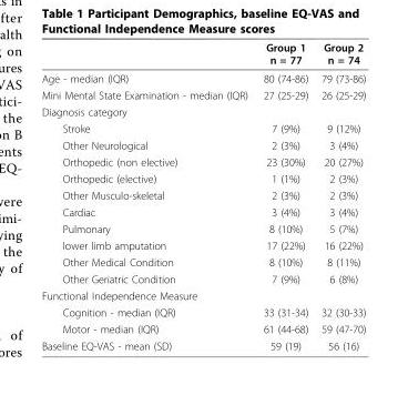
<table><thead><tr><td></td><td>Group 1 n = 77</td><td>Group 2 n = 74</td></tr></thead><tbody><tr><td>Age - median (IQR)</td><td>80 (74-86)</td><td>79 (73-86)</td></tr><tr><td>Mini Mental State Examination - median (IQR)</td><td>27 (25-29)</td><td>26 (25-29)</td></tr><tr><td colspan="3">Diagnosis category</td></tr><tr><td>Stroke</td><td>7 (9%)</td><td>9 (12%)</td></tr><tr><td>Other Neurological</td><td>2 (3%)</td><td>3 (4%)</td></tr><tr><td>Orthopedic (non elective)</td><td>23 (30%)</td><td>20 (27%)</td></tr><tr><td>Orthopedic (elective)</td><td>1 (1%)</td><td>2 (3%)</td></tr><tr><td>Other Musculo-skeletal</td><td>2 (3%)</td><td>2 (3%)</td></tr><tr><td>Cardiac</td><td>3 (4%)</td><td>3 (4%)</td></tr><tr><td>Pulmonary</td><td>8 (10%)</td><td>5 (7%)</td></tr><tr><td>lower limb amputation</td><td>17 (22%)</td><td>16 (22%)</td></tr><tr><td>Other Medical Condition</td><td>8 (10%)</td><td>8 (11%)</td></tr><tr><td>Other Geriatric Condition</td><td>7 (9%)</td><td>6 (8%)</td></tr><tr><td colspan="3">Functional Independence Measure</td></tr><tr><td>Cognition - median (IQR)</td><td>33 (31-34)</td><td>32 (30-33)</td></tr><tr><td>Motor - median (IQR)</td><td>61 (44-68)</td><td>59 (47-70)</td></tr><tr><td>Baseline EQ-VAS - mean (SD)</td><td>59 (19)</td><td>56 (16)</td></tr></tbody></table>